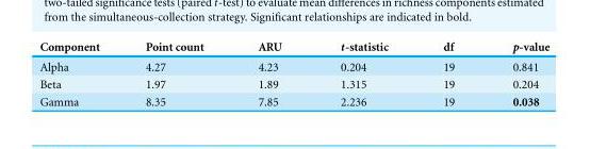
<table><thead><tr><td>Component</td><td>Point count</td><td>ARU</td><td>t-statistic</td><td>df</td><td>p-value</td></tr></thead><tbody><tr><td>Alpha</td><td>4.27</td><td>4.23</td><td>0.204</td><td>19</td><td>0.841</td></tr><tr><td>Beta</td><td>1.97</td><td>1.89</td><td>1.315</td><td>19</td><td>0.204</td></tr><tr><td>Gamma</td><td>8.35</td><td>7.85</td><td>2.236</td><td>19</td><td>0.038</td></tr></tbody></table>